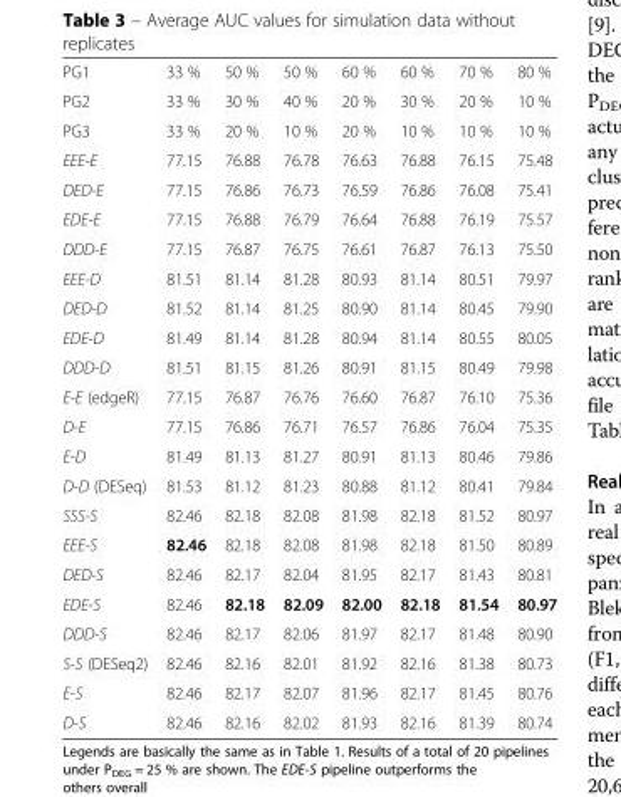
<table><tbody><tr><td>PG1</td><td>33 %</td><td>50 %</td><td>50 %</td><td>60 %</td><td>60 %</td><td>70 %</td><td>80 %</td></tr><tr><td>PG2</td><td>33 %</td><td>30 %</td><td>40 %</td><td>20 %</td><td>30 %</td><td>20 %</td><td>10 %</td></tr><tr><td>PG3</td><td>33 %</td><td>20 %</td><td>10 %</td><td>20 %</td><td>10 %</td><td>10 %</td><td>10 %</td></tr><tr><td>EEE-E</td><td>77.15</td><td>76.88</td><td>76.78</td><td>76.63</td><td>76.88</td><td>76.15</td><td>75.48</td></tr><tr><td>DED-E</td><td>77.15</td><td>76.86</td><td>76.73</td><td>76.59</td><td>76.86</td><td>76.08</td><td>75.41</td></tr><tr><td>EDE-E</td><td>77.15</td><td>76.88</td><td>76.79</td><td>76.64</td><td>76.88</td><td>76.19</td><td>75.57</td></tr><tr><td>DDD-E</td><td>77.15</td><td>76.87</td><td>76.75</td><td>76.61</td><td>76.87</td><td>76.13</td><td>75.50</td></tr><tr><td>EEE-D</td><td>81.51</td><td>81.14</td><td>81.28</td><td>80.93</td><td>81.14</td><td>80.51</td><td>79.97</td></tr><tr><td>DED-D</td><td>81.52</td><td>81.14</td><td>81.25</td><td>80.90</td><td>81.14</td><td>80.45</td><td>79.90</td></tr><tr><td>EDE-D</td><td>81.49</td><td>81.14</td><td>81.28</td><td>80.94</td><td>81.14</td><td>80.55</td><td>80.05</td></tr><tr><td>DDD-D</td><td>81.51</td><td>81.15</td><td>81.26</td><td>80.91</td><td>81.15</td><td>80.49</td><td>79.98</td></tr><tr><td>E-E (edgeR)</td><td>77.15</td><td>76.87</td><td>76.76</td><td>76.60</td><td>76.87</td><td>76.10</td><td>75.36</td></tr><tr><td>D-E</td><td>77.15</td><td>76.86</td><td>76.71</td><td>76.57</td><td>76.86</td><td>76.04</td><td>75.35</td></tr><tr><td>E-D</td><td>81.49</td><td>81.13</td><td>81.27</td><td>80.91</td><td>81.13</td><td>80.46</td><td>79.86</td></tr><tr><td>D-D (DESeq)</td><td>81.53</td><td>81.12</td><td>81.23</td><td>80.88</td><td>81.12</td><td>80.41</td><td>79.84</td></tr><tr><td>SSS-S</td><td>82.46</td><td>82.18</td><td>82.08</td><td>81.98</td><td>82.18</td><td>81.52</td><td>80.97</td></tr><tr><td>EEE-S</td><td>82.46</td><td>82.18</td><td>82.08</td><td>81.98</td><td>82.18</td><td>81.50</td><td>80.89</td></tr><tr><td>DED-S</td><td>82.46</td><td>82.17</td><td>82.04</td><td>81.95</td><td>82.17</td><td>81.43</td><td>80.81</td></tr><tr><td>EDE-S</td><td>82.46</td><td>82.18</td><td>82.09</td><td>82.00</td><td>82.18</td><td>81.54</td><td>80.97</td></tr><tr><td>DDD-S</td><td>82.46</td><td>82.17</td><td>82.06</td><td>81.97</td><td>82.17</td><td>81.48</td><td>80.90</td></tr><tr><td>S-S (DESeq2)</td><td>82.46</td><td>82.16</td><td>82.01</td><td>81.92</td><td>82.16</td><td>81.38</td><td>80.73</td></tr><tr><td>E-S</td><td>82.46</td><td>82.17</td><td>82.07</td><td>81.96</td><td>82.17</td><td>81.45</td><td>80.76</td></tr><tr><td>D-S</td><td>82.46</td><td>82.16</td><td>82.02</td><td>81.93</td><td>82.16</td><td>81.39</td><td>80.74</td></tr></tbody></table>